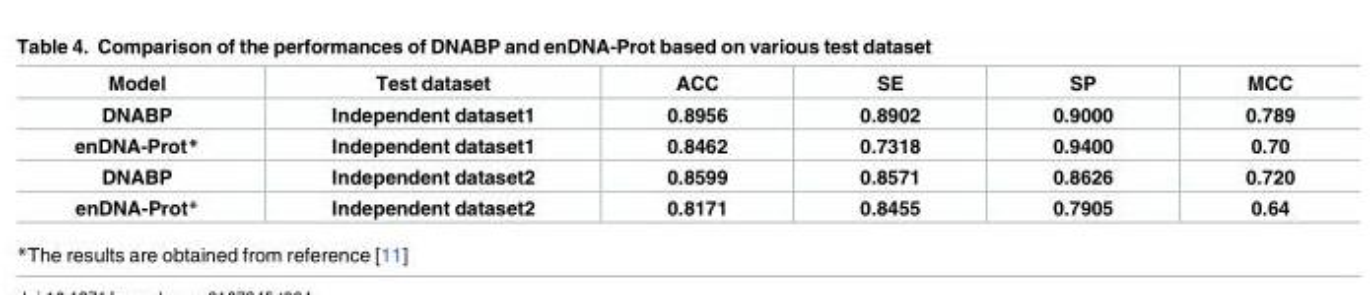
<table><thead><tr><td>Model</td><td>Test dataset</td><td>ACC</td><td>SE</td><td>SP</td><td>MCC</td></tr></thead><tbody><tr><td>DNABP</td><td>Independent dataset1</td><td>0.8956</td><td>0.8902</td><td>0.9000</td><td>0.789</td></tr><tr><td>enDNA-Prot*</td><td>Independent dataset1</td><td>0.8462</td><td>0.7318</td><td>0.9400</td><td>0.70</td></tr><tr><td>DNABP</td><td>Independent dataset2</td><td>0.8599</td><td>0.8571</td><td>0.8626</td><td>0.720</td></tr><tr><td>enDNA-Prot*</td><td>Independent dataset2</td><td>0.8171</td><td>0.8455</td><td>0.7905</td><td>0.64</td></tr></tbody></table>